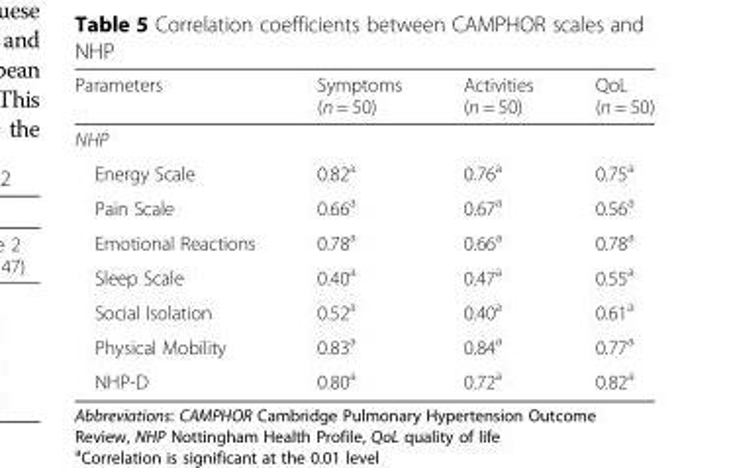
<table><thead><tr><td>Parameters</td><td>Symptoms (n = 50)</td><td>Activities (n = 50)</td><td>QoL (n = 50)</td></tr></thead><tbody><tr><td colspan="4">NHP</td></tr><tr><td>Energy Scale</td><td>0.82<sup>a</sup></td><td>0.76<sup>a</sup></td><td>0.75<sup>a</sup></td></tr><tr><td>Pain Scale</td><td>0.66<sup>a</sup></td><td>0.67<sup>a</sup></td><td>0.56<sup>a</sup></td></tr><tr><td>Emotional Reactions</td><td>0.78<sup>a</sup></td><td>0.66<sup>a</sup></td><td>0.78<sup>a</sup></td></tr><tr><td>Sleep Scale</td><td>0.40<sup>a</sup></td><td>0.47<sup>a</sup></td><td>0.55<sup>a</sup></td></tr><tr><td>Social Isolation</td><td>0.52<sup>a</sup></td><td>0.40<sup>a</sup></td><td>0.61<sup>a</sup></td></tr><tr><td>Physical Mobility</td><td>0.83<sup>a</sup></td><td>0.84<sup>a</sup></td><td>0.77<sup>a</sup></td></tr><tr><td>NHP-D</td><td>0.80<sup>a</sup></td><td>0.72<sup>a</sup></td><td>0.82<sup>a</sup></td></tr></tbody></table>